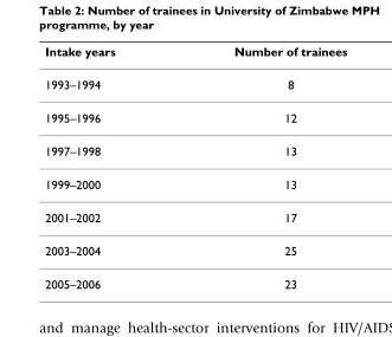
<table><thead><tr><td>Intake years</td><td>Number of trainees</td></tr></thead><tbody><tr><td>1993–1994</td><td>8</td></tr><tr><td>1995–1996</td><td>12</td></tr><tr><td>1997–1998</td><td>13</td></tr><tr><td>1999–2000</td><td>13</td></tr><tr><td>2001–2002</td><td>17</td></tr><tr><td>2003–2004</td><td>25</td></tr><tr><td>2005–2006</td><td>23</td></tr></tbody></table>